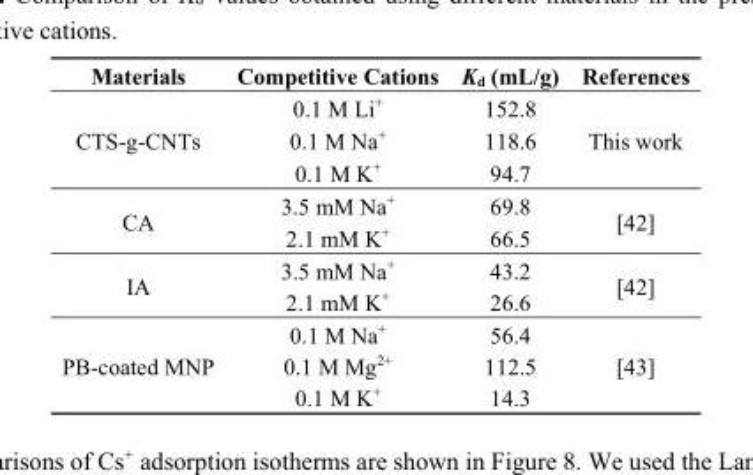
<table><thead><tr><td>Materials</td><td>Competitive Cations</td><td>K<sub>d</sub> (mL/g)</td><td>References</td></tr></thead><tbody><tr><td rowspan="3">CTS-g-CNTs</td><td>0.1 M Li<sup>+</sup></td><td>152.8</td><td rowspan="3">This work</td></tr><tr><td>0.1 M Na<sup>+</sup></td><td>118.6</td></tr><tr><td>0.1 M K<sup>+</sup></td><td>94.7</td></tr><tr><td rowspan="2">CA</td><td>3.5 mM Na<sup>+</sup></td><td>69.8</td><td rowspan="2">[42]</td></tr><tr><td>2.1 mM K<sup>+</sup></td><td>66.5</td></tr><tr><td rowspan="2">IA</td><td>3.5 mM Na<sup>+</sup></td><td>43.2</td><td rowspan="2">[42]</td></tr><tr><td>2.1 mM K<sup>+</sup></td><td>26.6</td></tr><tr><td rowspan="3">PB-coated MNP</td><td>0.1 M Na<sup>+</sup></td><td>56.4</td><td rowspan="3">[43]</td></tr><tr><td>0.1 M Mg<sup>2+</sup></td><td>112.5</td></tr><tr><td>0.1 M K<sup>+</sup></td><td>14.3</td></tr></tbody></table>